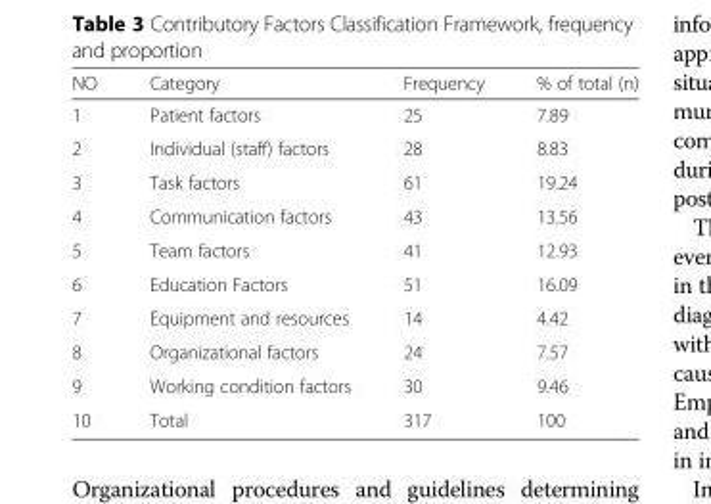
<table><thead><tr><td>NO</td><td>Category</td><td>Frequency</td><td>% of total (n)</td></tr></thead><tbody><tr><td>1</td><td>Patient factors</td><td>25</td><td>7.89</td></tr><tr><td>2</td><td>Individual (staff) factors</td><td>28</td><td>8.83</td></tr><tr><td>3</td><td>Task factors</td><td>61</td><td>19.24</td></tr><tr><td>4</td><td>Communication factors</td><td>43</td><td>13.56</td></tr><tr><td>5</td><td>Team factors</td><td>41</td><td>12.93</td></tr><tr><td>6</td><td>Education Factors</td><td>51</td><td>16.09</td></tr><tr><td>7</td><td>Equipment and resources</td><td>14</td><td>4.42</td></tr><tr><td>8</td><td>Organizational factors</td><td>24</td><td>7.57</td></tr><tr><td>9</td><td>Working condition factors</td><td>30</td><td>9.46</td></tr><tr><td>10</td><td>Total</td><td>317</td><td>100</td></tr></tbody></table>